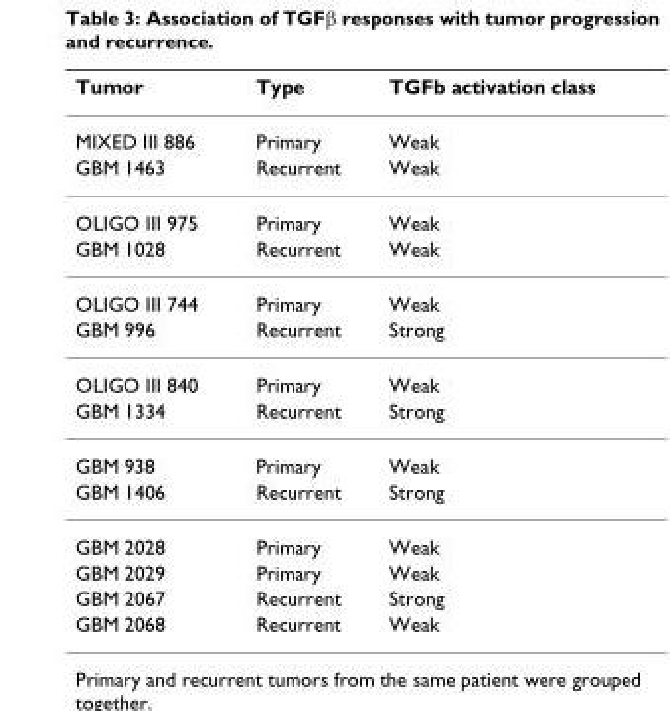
<table><thead><tr><td>Tumor</td><td>Type</td><td>TGFb activation class</td></tr></thead><tbody><tr><td>MIXED III 886</td><td>Primary</td><td>Weak</td></tr><tr><td>GBM 1463</td><td>Recurrent</td><td>Weak</td></tr><tr><td>OLIGO III 975</td><td>Primary</td><td>Weak</td></tr><tr><td>GBM 1028</td><td>Recurrent</td><td>Weak</td></tr><tr><td>OLIGO III 744</td><td>Primary</td><td>Weak</td></tr><tr><td>GBM 996</td><td>Recurrent</td><td>Strong</td></tr><tr><td>OLIGO III 840</td><td>Primary</td><td>Weak</td></tr><tr><td>GBM 1334</td><td>Recurrent</td><td>Strong</td></tr><tr><td>GBM 938</td><td>Primary</td><td>Weak</td></tr><tr><td>GBM 1406</td><td>Recurrent</td><td>Strong</td></tr><tr><td>GBM 2028</td><td>Primary</td><td>Weak</td></tr><tr><td>GBM 2029</td><td>Primary</td><td>Weak</td></tr><tr><td>GBM 2067</td><td>Recurrent</td><td>Strong</td></tr><tr><td>GBM 2068</td><td>Recurrent</td><td>Weak</td></tr></tbody></table>